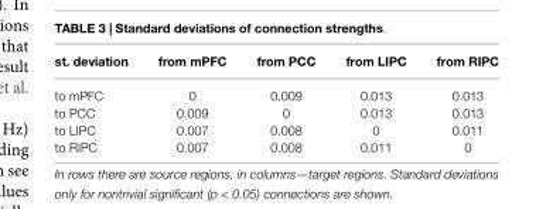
<table><thead><tr><td>st. deviation</td><td>from mPFC</td><td>from PCC</td><td>from LIPC</td><td>from RIPC</td></tr></thead><tbody><tr><td>to mPFC</td><td>0</td><td>0.009</td><td>0.013</td><td>0.013</td></tr><tr><td>to PCC</td><td>0.009</td><td>0</td><td>0.013</td><td>0.013</td></tr><tr><td>to LIPC</td><td>0.007</td><td>0.008</td><td>0</td><td>0.011</td></tr><tr><td>to RIPC</td><td>0.007</td><td>0.008</td><td>0.011</td><td>0</td></tr></tbody></table>